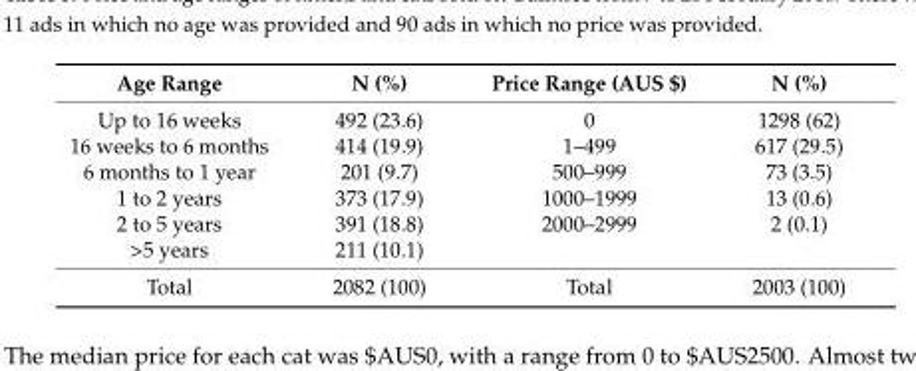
<table><thead><tr><td>Age Range</td><td>N (%)</td><td>Price Range (AUS $)</td><td>N (%)</td></tr></thead><tbody><tr><td>Up to 16 weeks</td><td>492 (23.6)</td><td>0</td><td>1298 (62)</td></tr><tr><td>16 weeks to 6 months</td><td>414 (19.9)</td><td>1–499</td><td>617 (29.5)</td></tr><tr><td>6 months to 1 year</td><td>201 (9.7)</td><td>500–999</td><td>73 (3.5)</td></tr><tr><td>1 to 2 years</td><td>373 (17.9)</td><td>1000–1999</td><td>13 (0.6)</td></tr><tr><td>2 to 5 years</td><td>391 (18.8)</td><td>2000–2999</td><td>2 (0.1)</td></tr><tr><td>&gt;5 years</td><td>211 (10.1)</td><td></td><td></td></tr><tr><td>Total</td><td>2082 (100)</td><td>Total</td><td>2003 (100)</td></tr></tbody></table>